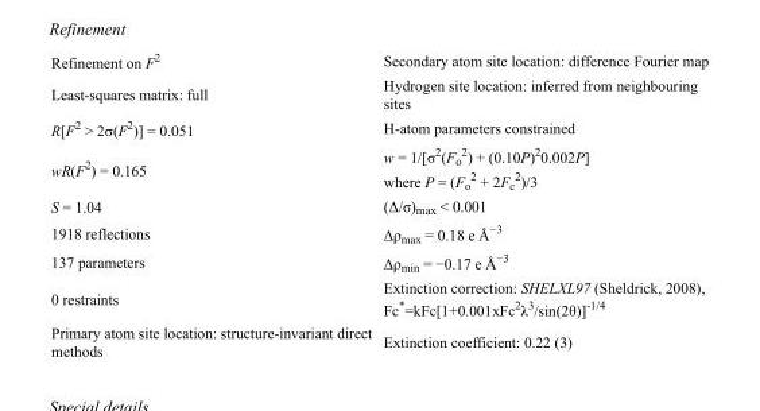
<table><tbody><tr><td>Refinement on F<sup>2</sup></td><td>Secondary atom site location: difference Fourier map</td></tr><tr><td>Least-squares matrix: full</td><td>Hydrogen site location: inferred from neighbouring sites</td></tr><tr><td>R[F<sup>2</sup> &gt; 2σ(F<sup>2</sup>)] = 0.051</td><td>H-atom parameters constrained</td></tr><tr><td>wR(F<sup>2</sup>) = 0.165</td><td>w = 1/[σ<sup>2</sup>(F<sub>o</sub> <sup>2</sup>) + (0.10P)<sup>2</sup>0.002P] where P = (F<sub>o</sub> <sup>2</sup> + 2F<sub>c</sub> <sup>2</sup>)/3</td></tr><tr><td>S = 1.04</td><td>(Δ/σ)<sub>max</sub> &lt; 0.001</td></tr><tr><td>1918 reflections</td><td>Δρ<sub>max</sub> = 0.18 e Å<sup>−3</sup></td></tr><tr><td>137 parameters</td><td>Δρ<sub>min</sub> = −0.17 e Å<sup>−3</sup></td></tr><tr><td>0 restraints</td><td>Extinction correction: SHELXL97 (Sheldrick, 2008), Fc*=kFc[1+0.001xFc<sup>2</sup>λ<sup>3</sup>/sin(2θ)]<sup>-1/4</sup></td></tr><tr><td>Primary atom site location: structure-invariant direct methods</td><td>Extinction coefficient: 0.22 (3)</td></tr></tbody></table>